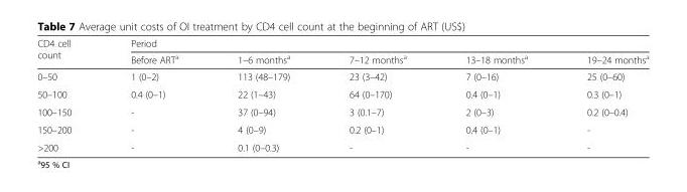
<table><thead><tr><td rowspan="2">CD4 cell count</td><td colspan="5">Period</td></tr><tr><td>Before ART<sup>a</sup></td><td>1–6 months<sup>a</sup></td><td>7–12 months<sup>a</sup></td><td>13–18 months<sup>a</sup></td><td>19–24 months<sup>a</sup></td></tr></thead><tbody><tr><td>0–50</td><td>1 (0–2)</td><td>113 (48–179)</td><td>23 (3–42)</td><td>7 (0–16)</td><td>25 (0–60)</td></tr><tr><td>50–100</td><td>0.4 (0–1)</td><td>22 (1–43)</td><td>64 (0–170)</td><td>0.4 (0–1)</td><td>0.3 (0–1)</td></tr><tr><td>100–150</td><td>-</td><td>37 (0–94)</td><td>3 (0.1–7)</td><td>2 (0–3)</td><td>0.2 (0–0.4)</td></tr><tr><td>150–200</td><td>-</td><td>4 (0–9)</td><td>0.2 (0–1)</td><td>0.4 (0–1)</td><td>-</td></tr><tr><td>&gt;200</td><td>-</td><td>0.1 (0–0.3)</td><td>-</td><td>-</td><td>-</td></tr></tbody></table>